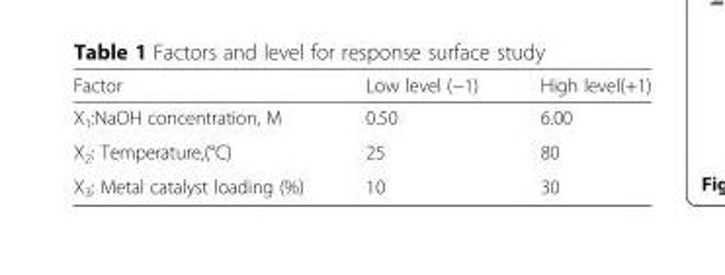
<table><thead><tr><td>Factor</td><td>Low level (−1)</td><td>High level(+1)</td></tr></thead><tbody><tr><td>X<sub>1</sub>:NaOH concentration, M</td><td>0.50</td><td>6.00</td></tr><tr><td>X<sub>2</sub>: Temperature,(°C)</td><td>25</td><td>80</td></tr><tr><td>X<sub>3</sub>: Metal catalyst loading (%)</td><td>10</td><td>30</td></tr></tbody></table>